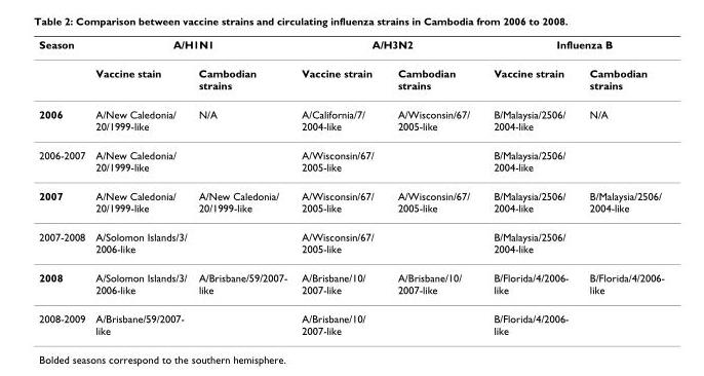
<table><thead><tr><td rowspan="2">Season</td><td colspan="2">A/H1N1</td><td colspan="2">A/H3N2</td><td colspan="2">Influenza B</td></tr><tr><td>Vaccine stain</td><td>Cambodian strains</td><td>Vaccine strain</td><td>Cambodian strains</td><td>Vaccine strain</td><td>Cambodian strains</td></tr></thead><tbody><tr><td>2006</td><td>A/New Caledonia/ 20/1999-like</td><td>N/A</td><td>A/California/7/ 2004-like</td><td>A/Wisconsin/67/ 2005-like</td><td>B/Malaysia/2506/ 2004-like</td><td>N/A</td></tr><tr><td>2006-2007</td><td>A/New Caledonia/ 20/1999-like</td><td></td><td>A/Wisconsin/67/ 2005-like</td><td></td><td>B/Malaysia/2506/ 2004-like</td><td></td></tr><tr><td>2007</td><td>A/New Caledonia/ 20/1999-like</td><td>A/New Caledonia/ 20/1999-like</td><td>A/Wisconsin/67/ 2005-like</td><td>A/Wisconsin/67/ 2005-like</td><td>B/Malaysia/2506/ 2004-like</td><td>B/Malaysia/2506/ 2004-like</td></tr><tr><td>2007-2008</td><td>A/Solomon Islands/3/ 2006-like</td><td></td><td>A/Wisconsin/67/ 2005-like</td><td></td><td>B/Malaysia/2506/ 2004-like</td><td></td></tr><tr><td>2008</td><td>A/Solomon Islands/3/ 2006-like</td><td>A/Brisbane/59/2007- like</td><td>A/Brisbane/10/ 2007-like</td><td>A/Brisbane/10/ 2007-like</td><td>B/Florida/4/2006- like</td><td>B/Florida/4/2006- like</td></tr><tr><td>2008-2009</td><td>A/Brisbane/59/2007- like</td><td></td><td>A/Brisbane/10/ 2007-like</td><td></td><td>B/Florida/4/2006- like</td><td></td></tr></tbody></table>